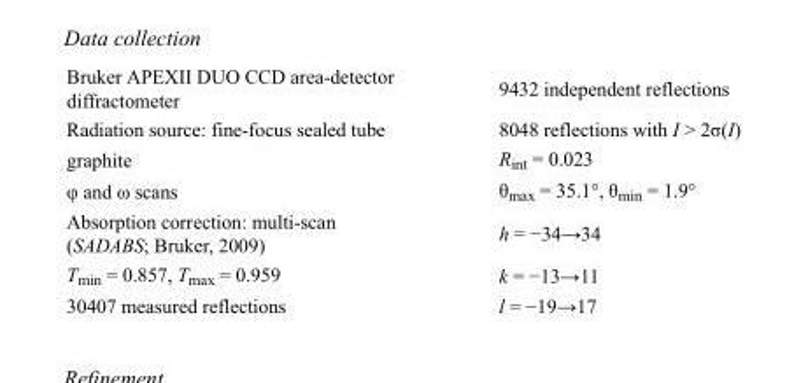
<table><tbody><tr><td>Bruker APEXII DUO CCD area-detector diffractometer</td><td>9432 independent reflections</td></tr><tr><td>Radiation source: fine-focus sealed tube</td><td>8048 reflections with I &gt; 2σ(I)</td></tr><tr><td>graphite</td><td>R<sub>int</sub> = 0.023</td></tr><tr><td>φ and ω scans</td><td>θ<sub>max</sub> = 35.1°, θ<sub>min</sub> = 1.9°</td></tr><tr><td>Absorption correction: multi-scan (SADABS; Bruker, 2009)</td><td>h = −34→34</td></tr><tr><td>T<sub>min</sub> = 0.857, T<sub>max</sub> = 0.959</td><td>k = −13→11</td></tr><tr><td>30407 measured reflections</td><td>l = −19→17</td></tr></tbody></table>